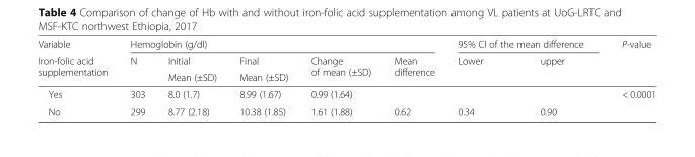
<table><thead><tr><td rowspan="3">Variable Iron-folic acid supplementation</td><td colspan="5">Hemoglobin (g/dl)</td><td colspan="2">95% CI of the mean difference</td><td rowspan="3">P-value</td></tr><tr><td rowspan="2">N</td><td rowspan="2">Initial Mean (±SD)</td><td rowspan="2">Final Mean (±SD)</td><td rowspan="2">Change of mean (±SD)</td><td rowspan="2">Mean difference</td><td rowspan="2">Lower</td><td rowspan="2">upper</td></tr><tr></tr></thead><tbody><tr><td>Yes</td><td>303</td><td>8.0 (1.7)</td><td>8.99 (1.67)</td><td>0.99 (1.64)</td><td></td><td></td><td></td><td>&lt; 0.0001</td></tr><tr><td>No</td><td>299</td><td>8.77 (2.18)</td><td>10.38 (1.85)</td><td>1.61 (1.88)</td><td>0.62</td><td>0.34</td><td>0.90</td><td></td></tr></tbody></table>